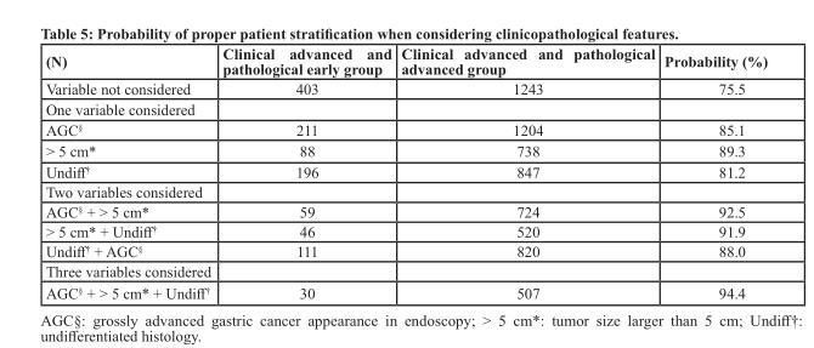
<table><thead><tr><td>(N)</td><td>Clinical advanced and pathological early group</td><td>Clinical advanced and pathological advanced group</td><td>Probability (%)</td></tr></thead><tbody><tr><td>Variable not considered</td><td>403</td><td>1243</td><td>75.5</td></tr><tr><td colspan="4">One variable considered</td></tr><tr><td>AGC<sup>§</sup></td><td>211</td><td>1204</td><td>85.1</td></tr><tr><td>&gt; 5 cm*</td><td>88</td><td>738</td><td>89.3</td></tr><tr><td>Undiff<sup>†</sup></td><td>196</td><td>847</td><td>81.2</td></tr><tr><td colspan="4">Two variables considered</td></tr><tr><td>AGC<sup>§</sup> + &gt; 5 cm*</td><td>59</td><td>724</td><td>92.5</td></tr><tr><td>&gt; 5 cm* + Undiff<sup>†</sup></td><td>46</td><td>520</td><td>91.9</td></tr><tr><td>Undiff<sup>†</sup> + AGC<sup>§</sup></td><td>111</td><td>820</td><td>88.0</td></tr><tr><td colspan="4">Three variables considered</td></tr><tr><td>AGC<sup>§</sup> + &gt; 5 cm* + Undiff<sup>†</sup></td><td>30</td><td>507</td><td>94.4</td></tr></tbody></table>